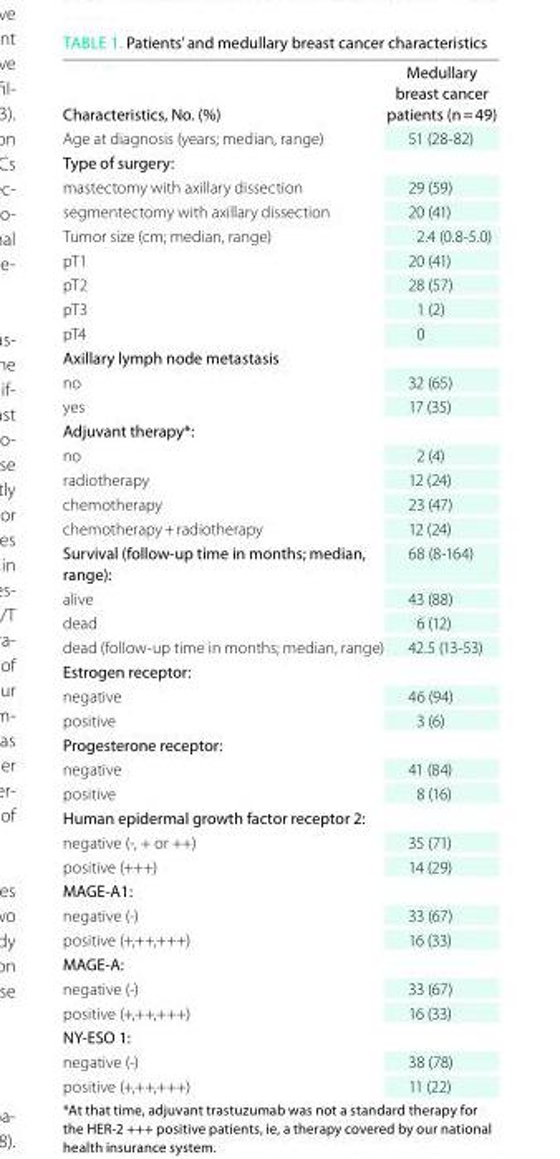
<table><thead><tr><td>Characteristics, No. (%)</td><td>Medullary breast cancer patients (n = 49)</td></tr></thead><tbody><tr><td>Age at diagnosis (years; median, range)</td><td>51 (28-82)</td></tr><tr><td colspan="2">type of surgery:</td></tr><tr><td>mastectomy with axillary dissection</td><td>29 (59)</td></tr><tr><td>segmentectomy with axillary dissection</td><td>20 (41)</td></tr><tr><td>Tumor size (cm; median, range)</td><td>2.4 (0.8-5.0)</td></tr><tr><td>pT1</td><td>20 (41)</td></tr><tr><td>pT2</td><td>28 (57)</td></tr><tr><td>pT3</td><td>1 (2)</td></tr><tr><td>pT4</td><td>0</td></tr><tr><td colspan="2">Axillary lymph node metastasis</td></tr><tr><td>no</td><td>32 (65)</td></tr><tr><td>yes</td><td>17 (35)</td></tr><tr><td colspan="2">Adjuvant therapy*:</td></tr><tr><td>no</td><td>2 (4)</td></tr><tr><td>radiotherapy</td><td>12 (24)</td></tr><tr><td>chemotherapy</td><td>23 (47)</td></tr><tr><td>chemotherapy + radiotherapy</td><td>12 (24)</td></tr><tr><td>Survival (follow-up time in months; median, range):</td><td>68 (8-164)</td></tr><tr><td>alive</td><td>43 (88)</td></tr><tr><td>dead</td><td>6 (12)</td></tr><tr><td>dead (follow-up time in months; median, range)</td><td>42.5 (13-53)</td></tr><tr><td colspan="2">estrogen receptor:</td></tr><tr><td>negative</td><td>46 (94)</td></tr><tr><td>positive</td><td>3 (6)</td></tr><tr><td colspan="2">Progesterone receptor:</td></tr><tr><td>negative</td><td>41 (84)</td></tr><tr><td>positive</td><td>8 (16)</td></tr><tr><td colspan="2">human epidermal growth factor receptor 2:</td></tr><tr><td>negative (-, + or ++)</td><td>35 (71)</td></tr><tr><td>positive (+++)</td><td>14 (29)</td></tr><tr><td colspan="2">MAGe-A1:</td></tr><tr><td>negative (-)</td><td>33 (67)</td></tr><tr><td>positive (+,++,+++)</td><td>16 (33)</td></tr><tr><td colspan="2">MAGe-A:</td></tr><tr><td>negative (-)</td><td>33 (67)</td></tr><tr><td>positive (+,++,+++)</td><td>16 (33)</td></tr><tr><td colspan="2">NY-eSo 1:</td></tr><tr><td>negative (-)</td><td>38 (78)</td></tr><tr><td>positive (+,++,+++)</td><td>11 (22)</td></tr></tbody></table>